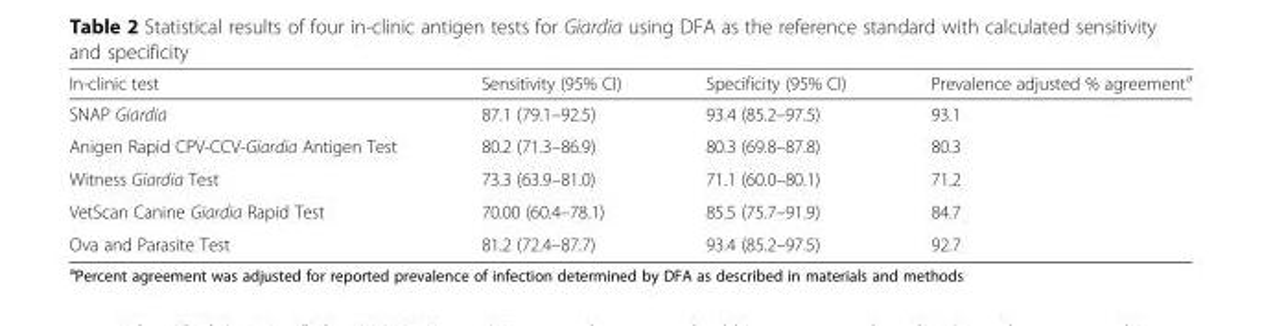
<table><thead><tr><td>In-clinic test</td><td>Sensitivity (95% CI)</td><td>Specificity (95% CI)</td><td>Prevalence adjusted % agreement<sup>a</sup></td></tr></thead><tbody><tr><td>SNAP Giardia</td><td>87.1 (79.1–92.5)</td><td>93.4 (85.2–97.5)</td><td>93.1</td></tr><tr><td>Anigen Rapid CPV-CCV-Giardia Antigen Test</td><td>80.2 (71.3–86.9)</td><td>80.3 (69.8–87.8)</td><td>80.3</td></tr><tr><td>Witness Giardia Test</td><td>73.3 (63.9–81.0)</td><td>71.1 (60.0–80.1)</td><td>71.2</td></tr><tr><td>VetScan Canine Giardia Rapid Test</td><td>70.00 (60.4–78.1)</td><td>85.5 (75.7–91.9)</td><td>84.7</td></tr><tr><td>Ova and Parasite Test</td><td>81.2 (72.4–87.7)</td><td>93.4 (85.2–97.5)</td><td>92.7</td></tr></tbody></table>